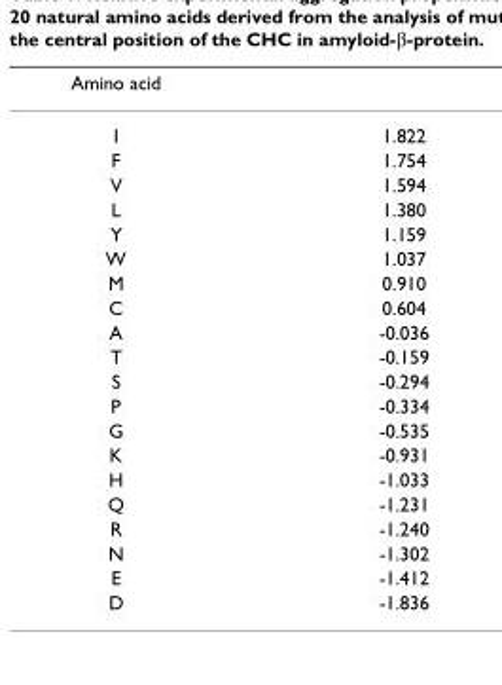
<table><thead><tr><td>Amino acid</td><td></td></tr></thead><tbody><tr><td>I</td><td>1.822</td></tr><tr><td>F</td><td>1.754</td></tr><tr><td>V</td><td>1.594</td></tr><tr><td>L</td><td>1.380</td></tr><tr><td>Y</td><td>1.159</td></tr><tr><td>W</td><td>1.037</td></tr><tr><td>M</td><td>0.910</td></tr><tr><td>C</td><td>0.604</td></tr><tr><td>A</td><td>-0.036</td></tr><tr><td>T</td><td>-0.159</td></tr><tr><td>S</td><td>-0.294</td></tr><tr><td>P</td><td>-0.334</td></tr><tr><td>G</td><td>-0.535</td></tr><tr><td>K</td><td>-0.931</td></tr><tr><td>H</td><td>-1.033</td></tr><tr><td>Q</td><td>-1.231</td></tr><tr><td>R</td><td>-1.240</td></tr><tr><td>N</td><td>-1.302</td></tr><tr><td>E</td><td>-1.412</td></tr><tr><td>D</td><td>-1.836</td></tr></tbody></table>